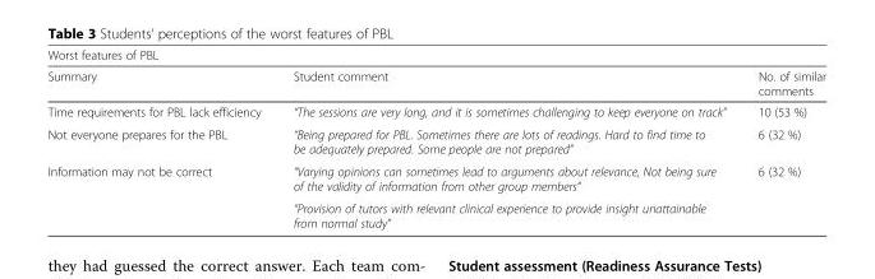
<table><thead><tr><td colspan="3">Worst features of PBL</td></tr><tr><td>Summary</td><td>Student comment</td><td>No. of similar comments</td></tr></thead><tbody><tr><td>Time requirements for PBL lack efficiency</td><td>“The sessions are very long, and it is sometimes challenging to keep everyone on track”</td><td>10 (53 %)</td></tr><tr><td>Not everyone prepares for the PBL</td><td>“Being prepared for PBL. Sometimes there are lots of readings. Hard to find time to be adequately prepared. Some people are not prepared”</td><td>6 (32 %)</td></tr><tr><td rowspan="2">Information may not be correct</td><td>“Varying opinions can sometimes lead to arguments about relevance, Not being sure of the validity of information from other group members”</td><td rowspan="2">6 (32 %)</td></tr><tr><td>“Provision of tutors with relevant clinical experience to provide insight unattainable from normal study”</td></tr></tbody></table>